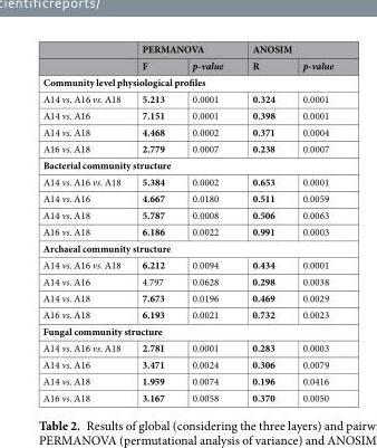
<table><thead><tr><td rowspan="2"></td><td colspan="2">PERMANOVA</td><td colspan="2">ANOSIM</td></tr><tr><td>F</td><td>p-value</td><td>R</td><td>p-value</td></tr></thead><tbody><tr><td colspan="5">Community level physiological profiles</td></tr><tr><td>A14 vs. A16 vs. A18</td><td>5.213</td><td>0.0001</td><td>0.324</td><td>0.0001</td></tr><tr><td>A14 vs. A16</td><td>7.151</td><td>0.0001</td><td>0.398</td><td>0.0001</td></tr><tr><td>A14 vs. A18</td><td>4.468</td><td>0.0002</td><td>0.371</td><td>0.0004</td></tr><tr><td>A16 vs. A18</td><td>2.779</td><td>0.0007</td><td>0.238</td><td>0.0007</td></tr><tr><td colspan="5">Bacterial community structure</td></tr><tr><td>A14 vs. A16 vs. A18</td><td>5.384</td><td>0.0002</td><td>0.653</td><td>0.0001</td></tr><tr><td>A14 vs. A16</td><td>4.667</td><td>0.0180</td><td>0.511</td><td>0.0059</td></tr><tr><td>A14 vs. A18</td><td>5.787</td><td>0.0008</td><td>0.506</td><td>0.0063</td></tr><tr><td>A16 vs. A18</td><td>6.186</td><td>0.0022</td><td>0.991</td><td>0.0003</td></tr><tr><td colspan="5">Archaeal community structure</td></tr><tr><td>A14 vs. A16 vs. A18</td><td>6.212</td><td>0.0094</td><td>0.434</td><td>0.0001</td></tr><tr><td>A14 vs. A16</td><td>4.797</td><td>0.0628</td><td>0.298</td><td>0.0038</td></tr><tr><td>A14 vs. A18</td><td>7.673</td><td>0.0196</td><td>0.469</td><td>0.0029</td></tr><tr><td>A16 vs. A18</td><td>6.193</td><td>0.0021</td><td>0.732</td><td>0.0023</td></tr><tr><td colspan="5">Fungal community structure</td></tr><tr><td>A14 vs. A16 vs. A18</td><td>2.781</td><td>0.0001</td><td>0.283</td><td>0.0003</td></tr><tr><td>A14 vs. A16</td><td>3.471</td><td>0.0024</td><td>0.306</td><td>0.0079</td></tr><tr><td>A14 vs. A18</td><td>1.959</td><td>0.0074</td><td>0.196</td><td>0.0416</td></tr><tr><td>A16 vs. A18</td><td>3.167</td><td>0.0058</td><td>0.370</td><td>0.0050</td></tr></tbody></table>